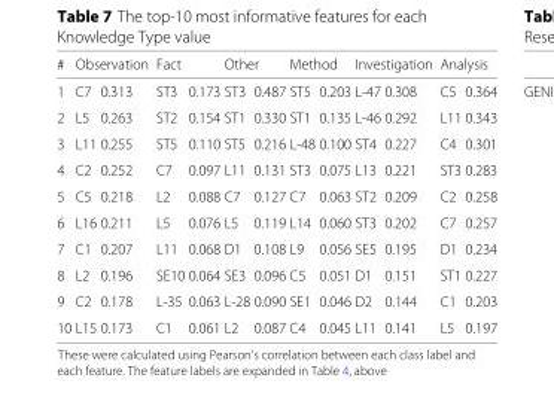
<table><thead><tr><td rowspan="2"># 1</td><td colspan="2">Observation</td><td colspan="2">Fact</td><td colspan="2">Other</td><td colspan="2">Method</td><td colspan="2">Investigation</td><td colspan="2">Analysis</td></tr><tr><td>C7</td><td>0.313</td><td>ST3</td><td>0.173</td><td>ST3</td><td>0.487</td><td>ST5</td><td>0.203</td><td>L-47</td><td>0.308</td><td>C5</td><td>0.364</td></tr></thead><tbody><tr><td>2</td><td>L5</td><td>0.263</td><td>ST2</td><td>0.154</td><td>ST1</td><td>0.330</td><td>ST1</td><td>0.135</td><td>L-46</td><td>0.292</td><td>L11</td><td>0.343</td></tr><tr><td>3</td><td>L11</td><td>0.255</td><td>ST5</td><td>0.110</td><td>ST5</td><td>0.216</td><td>L-48</td><td>0.100</td><td>ST4</td><td>0.227</td><td>C4</td><td>0.301</td></tr><tr><td>4</td><td>C2</td><td>0.252</td><td>C7</td><td>0.097</td><td>L11</td><td>0.131</td><td>ST3</td><td>0.075</td><td>L13</td><td>0.221</td><td>ST3</td><td>0.283</td></tr><tr><td>5</td><td>C5</td><td>0.218</td><td>L2</td><td>0.088</td><td>C7</td><td>0.127</td><td>C7</td><td>0.063</td><td>ST2</td><td>0.209</td><td>C2</td><td>0.258</td></tr><tr><td>6</td><td>L16</td><td>0.211</td><td>L5</td><td>0.076</td><td>L5</td><td>0.119</td><td>L14</td><td>0.060</td><td>ST3</td><td>0.202</td><td>C7</td><td>0.257</td></tr><tr><td>7</td><td>C1</td><td>0.207</td><td>L11</td><td>0.068</td><td>D1</td><td>0.108</td><td>L9</td><td>0.056</td><td>SE5</td><td>0.195</td><td>D1</td><td>0.234</td></tr><tr><td>8</td><td>L2</td><td>0.196</td><td>SE10</td><td>0.064</td><td>SE3</td><td>0.096</td><td>C5</td><td>0.051</td><td>D1</td><td>0.151</td><td>ST1</td><td>0.227</td></tr><tr><td>9</td><td>C2</td><td>0.178</td><td>L-35</td><td>0.063</td><td>L-28</td><td>0.090</td><td>SE1</td><td>0.046</td><td>D2</td><td>0.144</td><td>C1</td><td>0.203</td></tr><tr><td>10</td><td>L15</td><td>0.173</td><td>C1</td><td>0.061</td><td>L2</td><td>0.087</td><td>C4</td><td>0.045</td><td>L11</td><td>0.141</td><td>L5</td><td>0.197</td></tr></tbody></table>